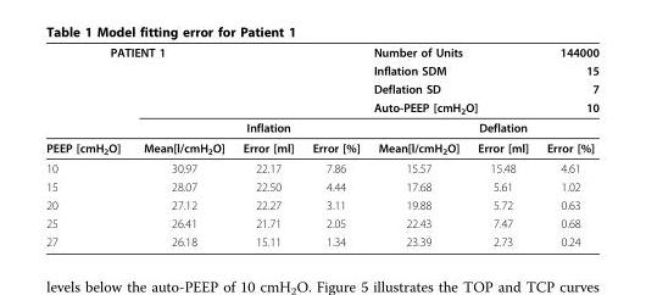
<table><thead><tr><td colspan="2">PATIENT 1</td><td rowspan="5">Inflation</td><td rowspan="5"></td><td rowspan="4" colspan="2">Number of Units Inflation SDM Deflation SD Auto-PEEP [cmH2O]</td><td rowspan="5">144000 15 7 10</td></tr><tr><td rowspan="4"></td><td rowspan="4"></td></tr><tr></tr><tr></tr><tr><td></td><td>Deflation</td></tr></thead><tbody><tr><td>PEEP [cmH2O]</td><td>Mean[l/cmH2O]</td><td>Error [ml]</td><td>Error [%]</td><td>Mean[l/cmH2O]</td><td>Error [ml]</td><td>Error [%]</td></tr><tr><td>10</td><td>30.97</td><td>22.17</td><td>7.86</td><td>15.57</td><td>15.48</td><td>4.61</td></tr><tr><td>15</td><td>28.07</td><td>22.50</td><td>4.44</td><td>17.68</td><td>5.61</td><td>1.02</td></tr><tr><td>20</td><td>27.12</td><td>22.27</td><td>3.11</td><td>19.88</td><td>5.72</td><td>0.63</td></tr><tr><td>25</td><td>26.41</td><td>21.71</td><td>2.05</td><td>22.43</td><td>7.47</td><td>0.68</td></tr><tr><td>27</td><td>26.18</td><td>15.11</td><td>1.34</td><td>23.39</td><td>2.73</td><td>0.24</td></tr></tbody></table>